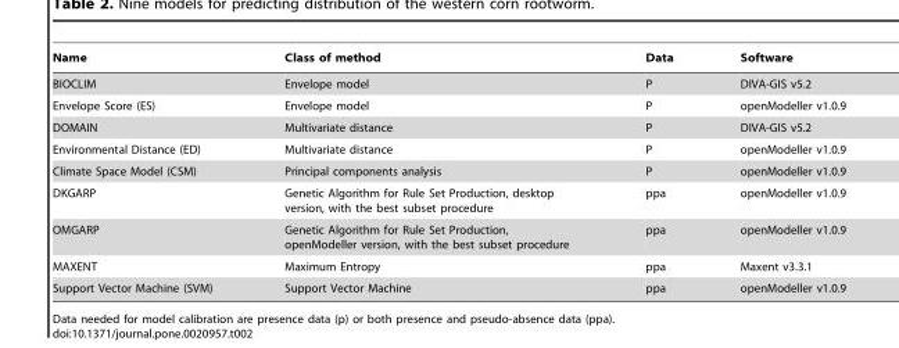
<table><thead><tr><td>Name</td><td>Class of method</td><td>Data</td><td>Software</td></tr></thead><tbody><tr><td>BIOCLIM</td><td>Envelope model</td><td>P</td><td>DIVA-GIS v5.2</td></tr><tr><td>Envelope Score (ES)</td><td>Envelope model</td><td>P</td><td>openModeller v1.0.9</td></tr><tr><td>DOMAIN</td><td>Multivariate distance</td><td>P</td><td>DIVA-GIS v5.2</td></tr><tr><td>Environmental Distance (ED)</td><td>Multivariate distance</td><td>P</td><td>openModeller v1.0.9</td></tr><tr><td>Climate Space Model (CSM)</td><td>Principal components analysis</td><td>P</td><td>openModeller v1.0.9</td></tr><tr><td>DKGARP</td><td>Genetic Algorithm for Rule Set Production, desktop version, with the best subset procedure</td><td>ppa</td><td>openModeller v1.0.9</td></tr><tr><td>OMGARP</td><td>Genetic Algorithm for Rule Set Production, openModeller version, with the best subset procedure</td><td>ppa</td><td>openModeller v1.0.9</td></tr><tr><td>MAXENT</td><td>Maximum Entropy</td><td>ppa</td><td>Maxent v3.3.1</td></tr><tr><td>Support Vector Machine (SVM)</td><td>Support Vector Machine</td><td>ppa</td><td>openModeller v1.0.9</td></tr></tbody></table>